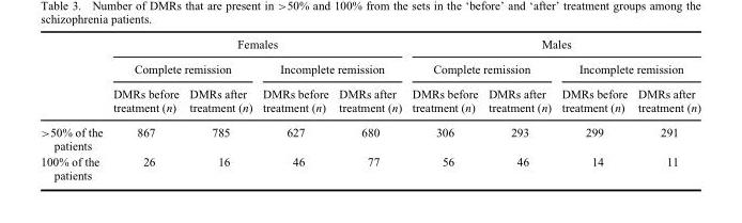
<table><thead><tr><td rowspan="3"></td><td colspan="4">Females</td><td colspan="4">Males</td></tr><tr><td colspan="2">Complete remission</td><td colspan="2">Incomplete remission</td><td colspan="2">Complete remission</td><td colspan="2">Incomplete remission</td></tr><tr><td>DMRs before treatment (n)</td><td>DMRs after treatment (n)</td><td>DMRs before treatment (n)</td><td>DMRs after treatment (n)</td><td>DMRs before treatment (n)</td><td>DMRs after treatment (n)</td><td>DMRs before treatment (n)</td><td>DMRs after treatment (n)</td></tr></thead><tbody><tr><td>&gt;50% of the patients</td><td>867</td><td>785</td><td>627</td><td>680</td><td>306</td><td>293</td><td>299</td><td>291</td></tr><tr><td>100% of the patients</td><td>26</td><td>16</td><td>46</td><td>77</td><td>56</td><td>46</td><td>14</td><td>11</td></tr></tbody></table>